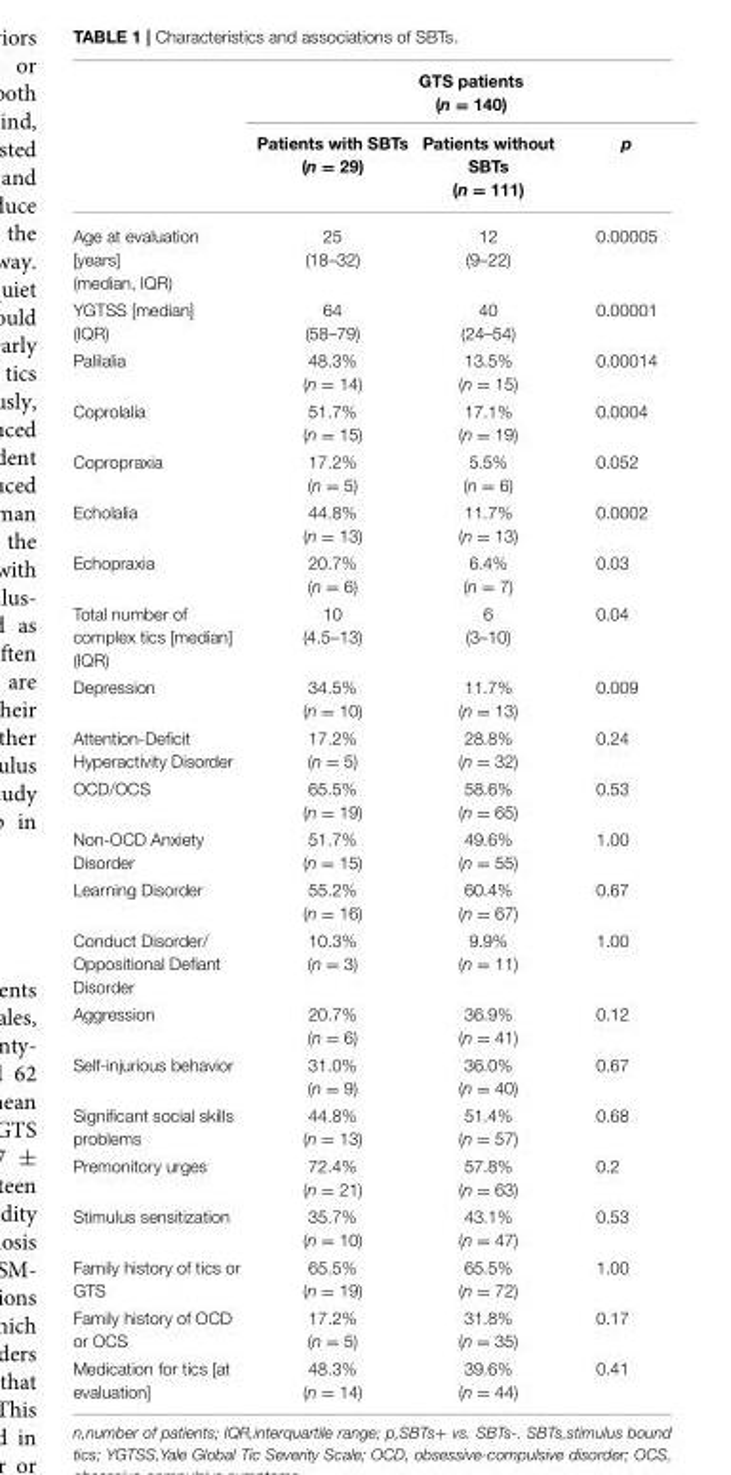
<table><thead><tr><td rowspan="2"></td><td colspan="3">GTS patients (n = 140)</td></tr><tr><td>Patients with SBTs (n = 29)</td><td>Patients without SBTs (n = 111)</td><td>p</td></tr></thead><tbody><tr><td>Age at evaluation [years] (median, IQR)</td><td>25 (18–32)</td><td>12 (9–22)</td><td>0.00005</td></tr><tr><td>YGTSS [median] (IQR)</td><td>64 (58–79)</td><td>40 (24–54)</td><td>0.00001</td></tr><tr><td>Palilalia</td><td>48.3% (n = 14)</td><td>13.5% (n = 15)</td><td>0.00014</td></tr><tr><td>Coprolalia</td><td>51.7% (n = 15)</td><td>17.1% (n = 19)</td><td>0.0004</td></tr><tr><td>Copropraxia</td><td>17.2% (n = 5)</td><td>5.5% (n = 6)</td><td>0.052</td></tr><tr><td>Echolalia</td><td>44.8% (n = 13)</td><td>11.7% (n = 13)</td><td>0.0002</td></tr><tr><td>Echopraxia</td><td>20.7% (n = 6)</td><td>6.4% (n = 7)</td><td>0.03</td></tr><tr><td>Total number of complex tics [median] (IQR)</td><td>10 (4.5–13)</td><td>6 (3–10)</td><td>0.04</td></tr><tr><td>Depression</td><td>34.5% (n = 10)</td><td>11.7% (n = 13)</td><td>0.009</td></tr><tr><td>Attention-Deficit Hyperactivity Disorder</td><td>17.2% (n = 5)</td><td>28.8% (n = 32)</td><td>0.24</td></tr><tr><td>OCD/OCS</td><td>65.5% (n = 19)</td><td>58.6% (n = 65)</td><td>0.53</td></tr><tr><td>Non-OCD Anxiety Disorder</td><td>51.7% (n = 15)</td><td>49.6% (n = 55)</td><td>1.00</td></tr><tr><td>Learning Disorder</td><td>55.2% (n = 16)</td><td>60.4% (n = 67)</td><td>0.67</td></tr><tr><td>Conduct Disorder/ Oppositional Defiant Disorder</td><td>10.3% (n = 3)</td><td>9.9% (n = 11)</td><td>1.00</td></tr><tr><td>Aggression</td><td>20.7% (n = 6)</td><td>36.9% (n = 41)</td><td>0.12</td></tr><tr><td>Self-injurious behavior</td><td>31.0% (n = 9)</td><td>36.0% (n = 40)</td><td>0.67</td></tr><tr><td>Significant social skills problems</td><td>44.8% (n = 13)</td><td>51.4% (n = 57)</td><td>0.68</td></tr><tr><td>Premonitory urges</td><td>72.4% (n = 21)</td><td>57.8% (n = 63)</td><td>0.2</td></tr><tr><td>Stimulus sensitization</td><td>35.7% (n = 10)</td><td>43.1% (n = 47)</td><td>0.53</td></tr><tr><td>Family history of tics or GTS</td><td>65.5% (n = 19)</td><td>65.5% (n = 72)</td><td>1.00</td></tr><tr><td>Family history of OCD or OCS</td><td>17.2% (n = 5)</td><td>31.8% (n = 35)</td><td>0.17</td></tr><tr><td>Medication for tics [at evaluation]</td><td>48.3% (n = 14)</td><td>39.6% (n = 44)</td><td>0.41</td></tr></tbody></table>